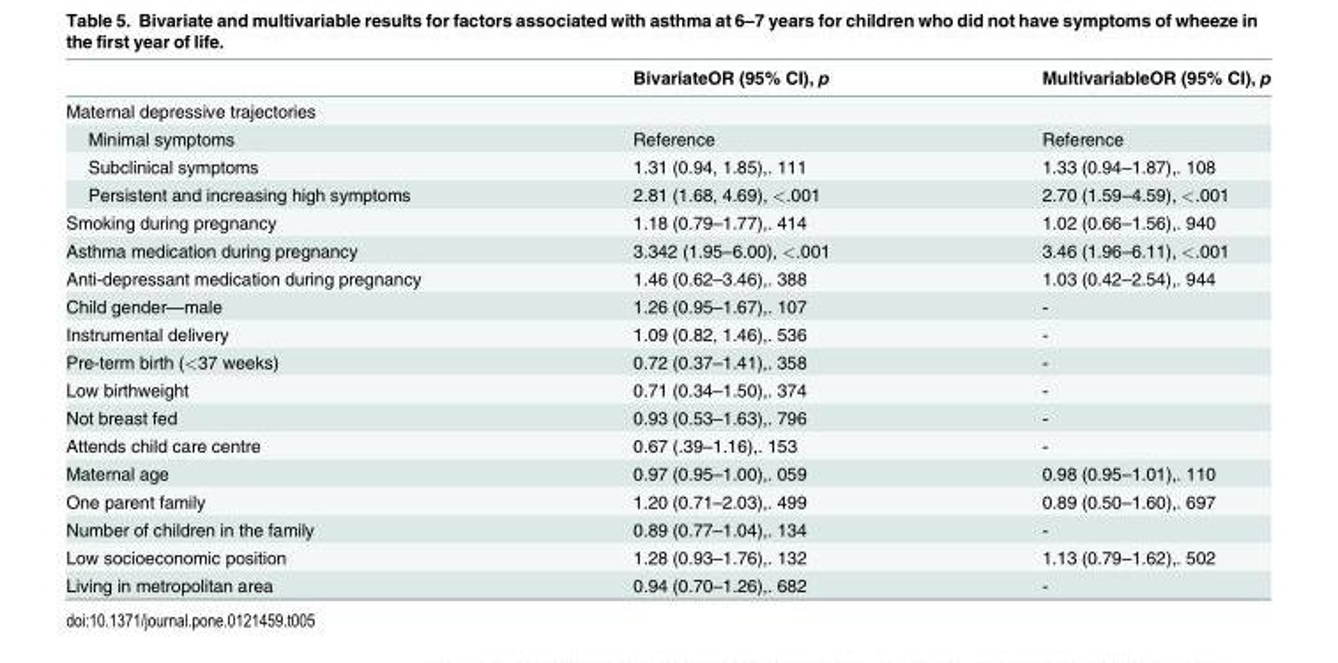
<table><thead><tr><td></td><td>BivariateOR (95% CI), p</td><td>MultivariableOR (95% CI), p</td></tr></thead><tbody><tr><td colspan="3">Maternal depressive trajectories</td></tr><tr><td>Minimal symptoms</td><td>Reference</td><td>Reference</td></tr><tr><td>Subclinical symptoms</td><td>1.31 (0.94, 1.85),. 111</td><td>1.33 (0.94–1.87),. 108</td></tr><tr><td>Persistent and increasing high symptoms</td><td>2.81 (1.68, 4.69), &lt;.001</td><td>2.70 (1.59–4.59), &lt;.001</td></tr><tr><td>Smoking during pregnancy</td><td>1.18 (0.79–1.77),. 414</td><td>1.02 (0.66–1.56),. 940</td></tr><tr><td>Asthma medication during pregnancy</td><td>3.342 (1.95–6.00), &lt;.001</td><td>3.46 (1.96–6.11), &lt;.001</td></tr><tr><td>Anti-depressant medication during pregnancy</td><td>1.46 (0.62–3.46),. 388</td><td>1.03 (0.42–2.54),. 944</td></tr><tr><td>Child gender—male</td><td>1.26 (0.95–1.67),. 107</td><td>-</td></tr><tr><td>Instrumental delivery</td><td>1.09 (0.82, 1.46),. 536</td><td>-</td></tr><tr><td>Pre-term birth (&lt;37 weeks)</td><td>0.72 (0.37–1.41),. 358</td><td>-</td></tr><tr><td>Low birthweight</td><td>0.71 (0.34–1.50),. 374</td><td>-</td></tr><tr><td>Not breast fed</td><td>0.93 (0.53–1.63),. 796</td><td>-</td></tr><tr><td>Attends child care centre</td><td>0.67 (.39–1.16),. 153</td><td>-</td></tr><tr><td>Maternal age</td><td>0.97 (0.95–1.00),. 059</td><td>0.98 (0.95–1.01),. 110</td></tr><tr><td>One parent family</td><td>1.20 (0.71–2.03),. 499</td><td>0.89 (0.50–1.60),. 697</td></tr><tr><td>Number of children in the family</td><td>0.89 (0.77–1.04),. 134</td><td>-</td></tr><tr><td>Low socioeconomic position</td><td>1.28 (0.93–1.76),. 132</td><td>1.13 (0.79–1.62),. 502</td></tr><tr><td>Living in metropolitan area</td><td>0.94 (0.70–1.26),. 682</td><td>-</td></tr></tbody></table>